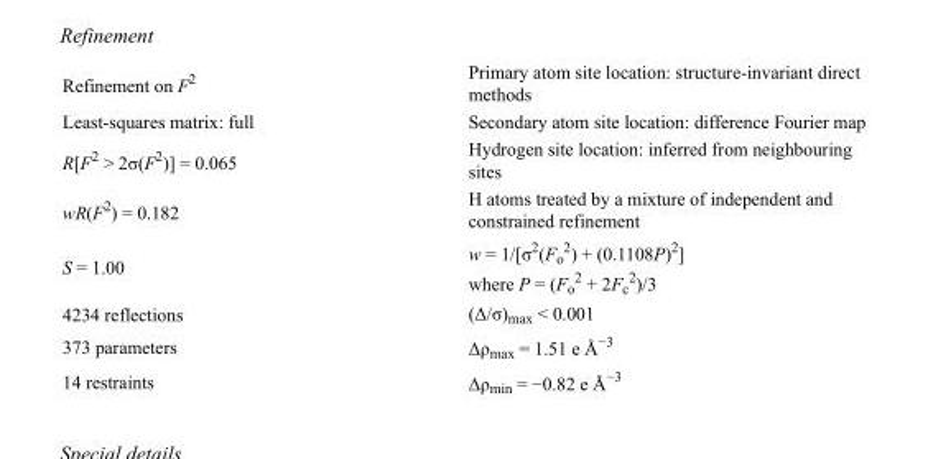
<table><tbody><tr><td>Refinement on F<sup>2</sup></td><td>Primary atom site location: structure-invariant direct methods</td></tr><tr><td>Least-squares matrix: full</td><td>Secondary atom site location: difference Fourier map</td></tr><tr><td>R[F<sup>2</sup> &gt; 2σ(F<sup>2</sup>)] = 0.065</td><td>Hydrogen site location: inferred from neighbouring sites</td></tr><tr><td>wR(F<sup>2</sup>) = 0.182</td><td>H atoms treated by a mixture of independent and constrained refinement</td></tr><tr><td>S = 1.00</td><td>w = 1/[σ<sup>2</sup>(F<sub>o</sub> <sup>2</sup>) + (0.1108P)<sup>2</sup>] where P = (F<sub>o</sub> <sup>2</sup> + 2F<sub>c</sub> <sup>2</sup>)/3</td></tr><tr><td>4234 reflections</td><td>(Δ/σ)<sub>max</sub> &lt; 0.001</td></tr><tr><td>373 parameters</td><td>Δρ<sub>max</sub> = 1.51 e Å<sup>−3</sup></td></tr><tr><td>14 restraints</td><td>Δρ<sub>min</sub> = −0.82 e Å<sup>−3</sup></td></tr></tbody></table>